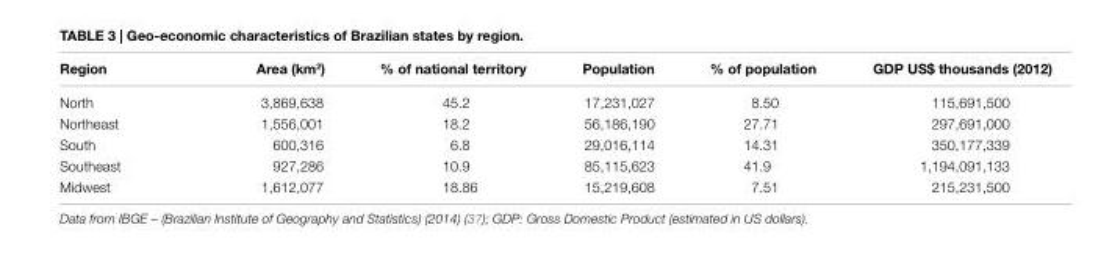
<table><thead><tr><td>region</td><td>area (km<sup>2</sup>)</td><td>% of national territory</td><td>Population</td><td>% of population</td><td>gDP Us$ thousands (2012)</td></tr></thead><tbody><tr><td>North</td><td>3,869,638</td><td>45.2</td><td>17,231,027</td><td>8.50</td><td>115,691,500</td></tr><tr><td>Northeast</td><td>1,556,001</td><td>18.2</td><td>56,186,190</td><td>27.71</td><td>297,691,000</td></tr><tr><td>South</td><td>600,316</td><td>6.8</td><td>29,016,114</td><td>14.31</td><td>350,177,339</td></tr><tr><td>Southeast</td><td>927,286</td><td>10.9</td><td>85,115,623</td><td>41.9</td><td>1,194,091,133</td></tr><tr><td>Midwest</td><td>1,612,077</td><td>18.86</td><td>15,219,608</td><td>7.51</td><td>215,231,500</td></tr></tbody></table>